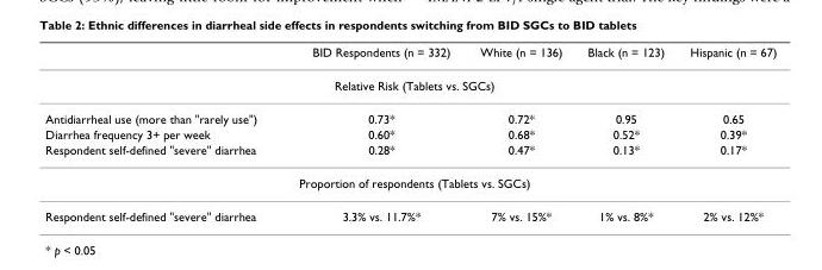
<table><thead><tr><td></td><td>BID Respondents (n = 332)</td><td>White (n = 136)</td><td>Black (n = 123)</td><td>Hispanic (n = 67)</td></tr></thead><tbody><tr><td colspan="5">Relative Risk (Tablets vs. SGCs)</td></tr><tr><td>Antidiarrheal use (more than &quot;rarely use&quot;)</td><td>0.73*</td><td>0.72*</td><td>0.95</td><td>0.65</td></tr><tr><td>Diarrhea frequency 3+ per week</td><td>0.60*</td><td>0.68*</td><td>0.52*</td><td>0.39*</td></tr><tr><td>Respondent self-defined &quot;severe&quot; diarrhea</td><td>0.28*</td><td>0.47*</td><td>0.13*</td><td>0.17*</td></tr><tr><td colspan="5">Proportion of respondents (Tablets vs. SGCs)</td></tr><tr><td>Respondent self-defined &quot;severe&quot; diarrhea</td><td>3.3% vs. 11.7%*</td><td>7% vs. 15%*</td><td>1% vs. 8%*</td><td>2% vs. 12%*</td></tr></tbody></table>